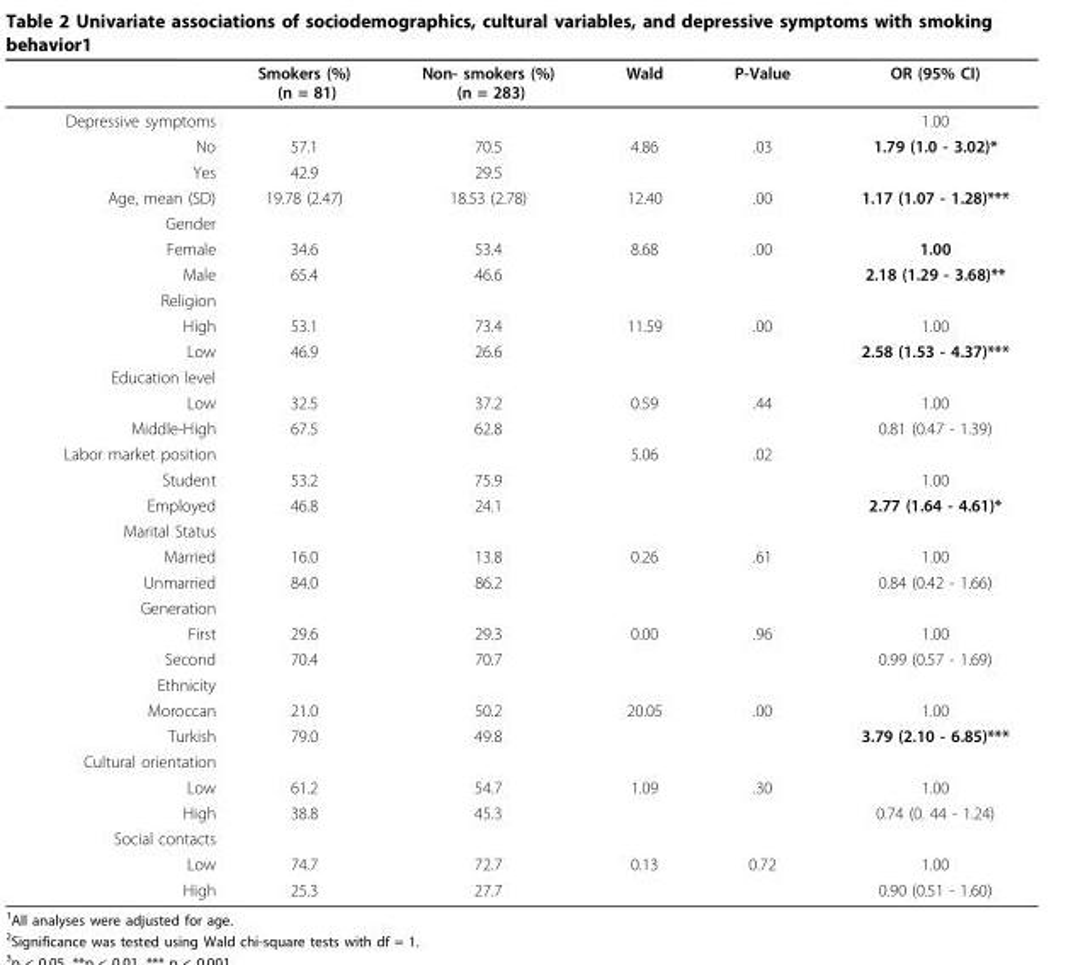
<table><thead><tr><td></td><td>Smokers (%) (n = 81)</td><td>Non- smokers (%) (n = 283)</td><td>Wald</td><td>P-Value</td><td>OR (95% CI)</td></tr></thead><tbody><tr><td>Depressive symptoms</td><td></td><td></td><td></td><td></td><td>1.00</td></tr><tr><td>No</td><td>57.1</td><td>70.5</td><td>4.86</td><td>.03</td><td>1.79 (1.0 - 3.02)*</td></tr><tr><td>Yes</td><td>42.9</td><td>29.5</td><td></td><td></td><td></td></tr><tr><td>Age, mean (SD)</td><td>19.78 (2.47)</td><td>18.53 (2.78)</td><td>12.40</td><td>.00</td><td>1.17 (1.07 - 1.28)***</td></tr><tr><td colspan="6">Gender</td></tr><tr><td>Female</td><td>34.6</td><td>53.4</td><td>8.68</td><td>.00</td><td>1.00</td></tr><tr><td>Male</td><td>65.4</td><td>46.6</td><td></td><td></td><td>2.18 (1.29 - 3.68)**</td></tr><tr><td colspan="6">Religion</td></tr><tr><td>High</td><td>53.1</td><td>73.4</td><td>11.59</td><td>.00</td><td>1.00</td></tr><tr><td>Low</td><td>46.9</td><td>26.6</td><td></td><td></td><td>2.58 (1.53 - 4.37)***</td></tr><tr><td colspan="6">Education level</td></tr><tr><td>Low</td><td>32.5</td><td>37.2</td><td>0.59</td><td>.44</td><td>1.00</td></tr><tr><td>Middle-High</td><td>67.5</td><td>62.8</td><td></td><td></td><td>0.81 (0.47 - 1.39)</td></tr><tr><td>Labor market position</td><td></td><td></td><td>5.06</td><td>.02</td><td></td></tr><tr><td>Student</td><td>53.2</td><td>75.9</td><td></td><td></td><td>1.00</td></tr><tr><td>Employed</td><td>46.8</td><td>24.1</td><td></td><td></td><td>2.77 (1.64 - 4.61)*</td></tr><tr><td colspan="6">Marital Status</td></tr><tr><td>Married</td><td>16.0</td><td>13.8</td><td>0.26</td><td>.61</td><td>1.00</td></tr><tr><td>Unmarried</td><td>84.0</td><td>86.2</td><td></td><td></td><td>0.84 (0.42 - 1.66)</td></tr><tr><td colspan="6">Generation</td></tr><tr><td>First</td><td>29.6</td><td>29.3</td><td>0.00</td><td>.96</td><td>1.00</td></tr><tr><td>Second</td><td>70.4</td><td>70.7</td><td></td><td></td><td>0.99 (0.57 - 1.69)</td></tr><tr><td colspan="6">Ethnicity</td></tr><tr><td>Moroccan</td><td>21.0</td><td>50.2</td><td>20.05</td><td>.00</td><td>1.00</td></tr><tr><td>Turkish</td><td>79.0</td><td>49.8</td><td></td><td></td><td>3.79 (2.10 - 6.85)***</td></tr><tr><td colspan="6">Cultural orientation</td></tr><tr><td>Low</td><td>61.2</td><td>54.7</td><td>1.09</td><td>.30</td><td>1.00</td></tr><tr><td>High</td><td>38.8</td><td>45.3</td><td></td><td></td><td>0.74 (0. 44 - 1.24)</td></tr><tr><td colspan="6">Social contacts</td></tr><tr><td>Low</td><td>74.7</td><td>72.7</td><td>0.13</td><td>0.72</td><td>1.00</td></tr><tr><td>High</td><td>25.3</td><td>27.7</td><td></td><td></td><td>0.90 (0.51 - 1.60)</td></tr></tbody></table>